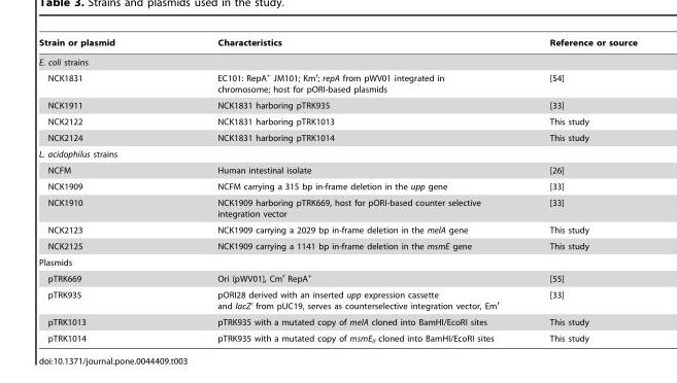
<table><thead><tr><td>Strain or plasmid</td><td>Characteristics</td><td>Reference or source</td></tr></thead><tbody><tr><td colspan="3">E. coli strains</td></tr><tr><td>NCK1831</td><td>EC101: RepA<sup>+</sup> JM101; Km<sup>r</sup>; repA from pWV01 integrated in chromosome; host for pORI-based plasmids</td><td>[54]</td></tr><tr><td>NCK1911</td><td>NCK1831 harboring pTRK935</td><td>[33]</td></tr><tr><td>NCK2122</td><td>NCK1831 harboring pTRK1013</td><td>This study</td></tr><tr><td>NCK2124</td><td>NCK1831 harboring pTRK1014</td><td>This study</td></tr><tr><td colspan="3">L. acidophilus strains</td></tr><tr><td>NCFM</td><td>Human intestinal isolate</td><td>[26]</td></tr><tr><td>NCK1909</td><td>NCFM carrying a 315 bp in-frame deletion in the upp gene</td><td>[33]</td></tr><tr><td>NCK1910</td><td>NCK1909 harboring pTRK669, host for pORI-based counter selective integration vector</td><td>[33]</td></tr><tr><td>NCK2123</td><td>NCK1909 carrying a 2029 bp in-frame deletion in the melA gene</td><td>This study</td></tr><tr><td>NCK2125</td><td>NCK1909 carrying a 1141 bp in-frame deletion in the msmE gene</td><td>This study</td></tr><tr><td colspan="3">Plasmids</td></tr><tr><td>pTRK669</td><td>Ori (pWV01], Cm<sup>r</sup> RepA<sup>+</sup></td><td>[55]</td></tr><tr><td>pTRK935</td><td>pORI28 derived with an inserted upp expression cassette and lacZ’ from pUC19, serves as counterselective integration vector, Em<sup>r</sup></td><td>[33]</td></tr><tr><td>pTRK1013</td><td>pTRK935 with a mutated copy of melA cloned into BamHI/EcoRI sites</td><td>This study</td></tr><tr><td>pTRK1014</td><td>pTRK935 with a mutated copy of msmE<sub>II</sub> cloned into BamHI/EcoRI sites</td><td>This study</td></tr></tbody></table>